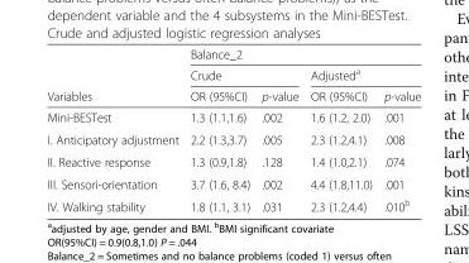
<table><thead><tr><td rowspan="3">Variables</td><td colspan="4">Balance_2</td></tr><tr><td colspan="2">Crude</td><td colspan="2">Adjusted<sup>a</sup></td></tr><tr><td>OR (95%CI)</td><td>p-value</td><td>OR (95%CI)</td><td>p-value</td></tr></thead><tbody><tr><td>Mini-BESTest</td><td>1.3 (1.1,1.6)</td><td>.002</td><td>1.6 (1.2, 2.0)</td><td>.001</td></tr><tr><td>I. Anticipatory adjustment</td><td>2.2 (1.3,3.7)</td><td>.005</td><td>2.3 (1.2,4.1)</td><td>.008</td></tr><tr><td>II. Reactive response</td><td>1.3 (0.9,1.8)</td><td>.128</td><td>1.4 (1.0,2.1)</td><td>.074</td></tr><tr><td>III. Sensori-orientation</td><td>3.7 (1.6, 8.4)</td><td>.002</td><td>4.4 (1.8,11.0)</td><td>.001</td></tr><tr><td>IV. Walking stability</td><td>1.8 (1.1, 3.1)</td><td>.031</td><td>2.3 (1.2,4.4)</td><td>.010<sup>b</sup></td></tr></tbody></table>